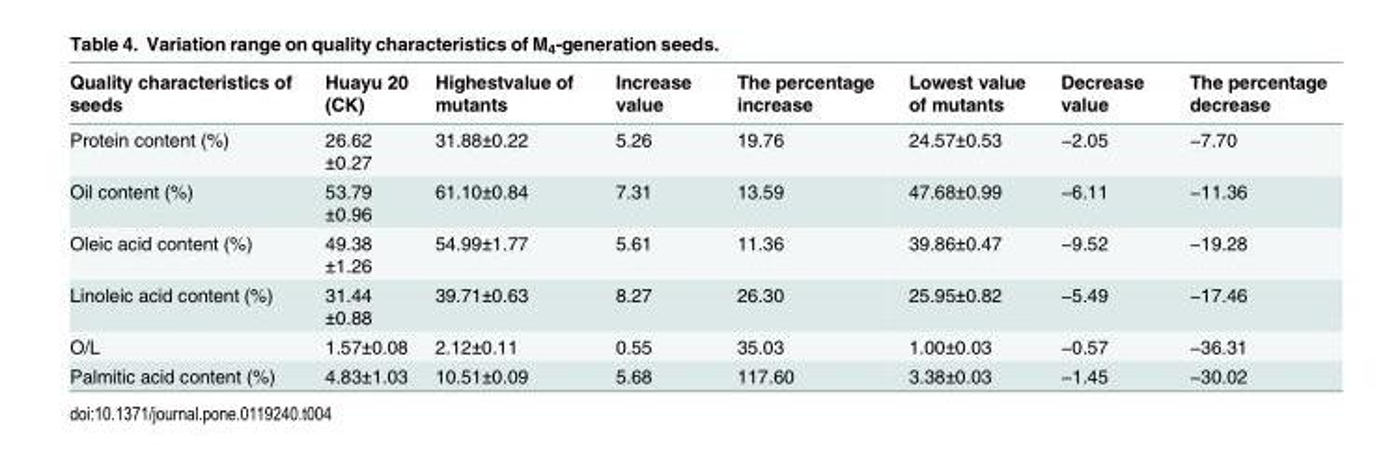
<table><thead><tr><td>Quality characteristics of seeds</td><td>Huayu 20 (CK)</td><td>Highestvalue of mutants</td><td>Increase value</td><td>The percentage increase</td><td>Lowest value of mutants</td><td>Decrease value</td><td>The percentage decrease</td></tr></thead><tbody><tr><td>Protein content (%)</td><td>26.62 ±0.27</td><td>31.88±0.22</td><td>5.26</td><td>19.76</td><td>24.57±0.53</td><td>−2.05</td><td>−7.70</td></tr><tr><td>Oil content (%)</td><td>53.79 ±0.96</td><td>61.10±0.84</td><td>7.31</td><td>13.59</td><td>47.68±0.99</td><td>−6.11</td><td>−11.36</td></tr><tr><td>Oleic acid content (%)</td><td>49.38 ±1.26</td><td>54.99±1.77</td><td>5.61</td><td>11.36</td><td>39.86±0.47</td><td>−9.52</td><td>−19.28</td></tr><tr><td>Linoleic acid content (%)</td><td>31.44 ±0.88</td><td>39.71±0.63</td><td>8.27</td><td>26.30</td><td>25.95±0.82</td><td>−5.49</td><td>−17.46</td></tr><tr><td>O/L</td><td>1.57±0.08</td><td>2.12±0.11</td><td>0.55</td><td>35.03</td><td>1.00±0.03</td><td>−0.57</td><td>−36.31</td></tr><tr><td>Palmitic acid content (%)</td><td>4.83±1.03</td><td>10.51±0.09</td><td>5.68</td><td>117.60</td><td>3.38±0.03</td><td>−1.45</td><td>−30.02</td></tr></tbody></table>